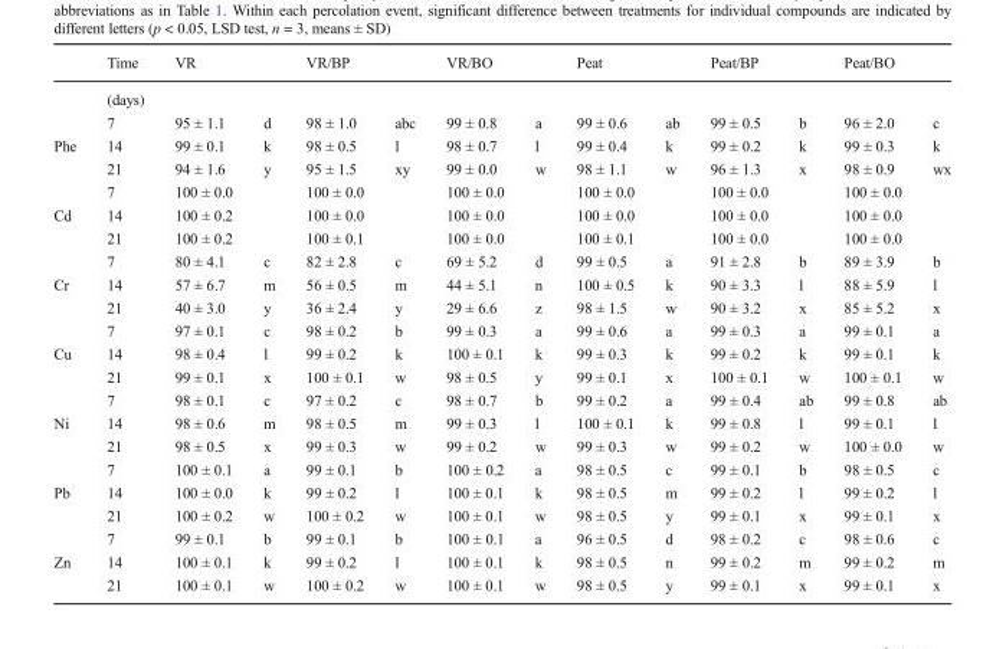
<table><thead><tr><td></td><td>Time</td><td>VR</td><td></td><td>VR/BP</td><td></td><td>VR/BO</td><td></td><td>Peat</td><td></td><td>Peat/BP</td><td></td><td>Peat/BO</td><td></td></tr></thead><tbody><tr><td></td><td>(days)</td><td></td><td></td><td></td><td></td><td></td><td></td><td></td><td></td><td></td><td></td><td></td><td></td></tr><tr><td></td><td>7</td><td>95 ± 1.1</td><td>d</td><td>98 ± 1.0</td><td>abc</td><td>99 ± 0.8</td><td>a</td><td>99 ± 0.6</td><td>ab</td><td>99 ± 0.5</td><td>b</td><td>96 ± 2.0</td><td>c</td></tr><tr><td rowspan="3">Phe</td><td>14</td><td>99 ± 0.1</td><td>k</td><td>98 ± 0.5</td><td>l</td><td>98 ± 0.7</td><td>l</td><td>99 ± 0.4</td><td>k</td><td>99 ± 0.2</td><td>k</td><td>99 ± 0.3</td><td>k</td></tr><tr><td>21</td><td>94 ± 1.6</td><td>y</td><td>95 ± 1.5</td><td>xy</td><td>99 ± 0.0</td><td>w</td><td>98 ± 1.1</td><td>w</td><td>96 ± 1.3</td><td>x</td><td>98 ± 0.9</td><td>wx</td></tr><tr><td>7</td><td>100 ± 0.0</td><td></td><td>100 ± 0.0</td><td></td><td>100 ± 0.0</td><td></td><td>100 ± 0.0</td><td></td><td>100 ± 0.0</td><td></td><td>100 ± 0.0</td><td></td></tr><tr><td rowspan="3">Cd</td><td>14</td><td>100 ± 0.2</td><td></td><td>100 ± 0.0</td><td></td><td>100 ± 0.0</td><td></td><td>100 ± 0.0</td><td></td><td>100 ± 0.0</td><td></td><td>100 ± 0.0</td><td></td></tr><tr><td>21</td><td>100 ± 0.2</td><td></td><td>100 ± 0.1</td><td></td><td>100 ± 0.0</td><td></td><td>100 ± 0.1</td><td></td><td>100 ± 0.0</td><td></td><td>100 ± 0.0</td><td></td></tr><tr><td>7</td><td>80 ± 4.1</td><td>c</td><td>82 ± 2.8</td><td>c</td><td>69 ± 5.2</td><td>d</td><td>99 ± 0.5</td><td>a</td><td>91 ± 2.8</td><td>b</td><td>89 ± 3.9</td><td>b</td></tr><tr><td rowspan="3">Cr</td><td>14</td><td>57 ± 6.7</td><td>m</td><td>56 ± 0.5</td><td>m</td><td>44 ± 5.1</td><td>n</td><td>100 ± 0.5</td><td>k</td><td>90 ± 3.3</td><td>l</td><td>88 ± 5.9</td><td>l</td></tr><tr><td>21</td><td>40 ± 3.0</td><td>y</td><td>36 ± 2.4</td><td>y</td><td>29 ± 6.6</td><td>z</td><td>98 ± 1.5</td><td>w</td><td>90 ± 3.2</td><td>x</td><td>85 ± 5.2</td><td>x</td></tr><tr><td>7</td><td>97 ± 0.1</td><td>c</td><td>98 ± 0.2</td><td>b</td><td>99 ± 0.3</td><td>a</td><td>99 ± 0.6</td><td>a</td><td>99 ± 0.3</td><td>a</td><td>99 ± 0.1</td><td>a</td></tr><tr><td rowspan="3">Cu</td><td>14</td><td>98 ± 0.4</td><td>l</td><td>99 ± 0.2</td><td>k</td><td>100 ± 0.1</td><td>k</td><td>99 ± 0.3</td><td>k</td><td>99 ± 0.2</td><td>k</td><td>99 ± 0.1</td><td>k</td></tr><tr><td>21</td><td>99 ± 0.1</td><td>x</td><td>100 ± 0.1</td><td>w</td><td>98 ± 0.5</td><td>y</td><td>99 ± 0.1</td><td>x</td><td>100 ± 0.1</td><td>w</td><td>100 ± 0.1</td><td>w</td></tr><tr><td>7</td><td>98 ± 0.1</td><td>c</td><td>97 ± 0.2</td><td>c</td><td>98 ± 0.7</td><td>b</td><td>99 ± 0.2</td><td>a</td><td>99 ± 0.4</td><td>ab</td><td>99 ± 0.8</td><td>ab</td></tr><tr><td rowspan="3">Ni</td><td>14</td><td>98 ± 0.6</td><td>m</td><td>98 ± 0.5</td><td>m</td><td>99 ± 0.3</td><td>l</td><td>100 ± 0.1</td><td>k</td><td>99 ± 0.8</td><td>l</td><td>99 ± 0.1</td><td>l</td></tr><tr><td>21</td><td>98 ± 0.5</td><td>x</td><td>99 ± 0.3</td><td>w</td><td>99 ± 0.2</td><td>w</td><td>99 ± 0.3</td><td>w</td><td>99 ± 0.2</td><td>w</td><td>100 ± 0.0</td><td>w</td></tr><tr><td>7</td><td>100 ± 0.1</td><td>a</td><td>99 ± 0.1</td><td>b</td><td>100 ± 0.2</td><td>a</td><td>98 ± 0.5</td><td>c</td><td>99 ± 0.1</td><td>b</td><td>98 ± 0.5</td><td>c</td></tr><tr><td rowspan="3">Pb</td><td>14</td><td>100 ± 0.0</td><td>k</td><td>99 ± 0.2</td><td>l</td><td>100 ± 0.1</td><td>k</td><td>98 ± 0.5</td><td>m</td><td>99 ± 0.2</td><td>l</td><td>99 ± 0.2</td><td>l</td></tr><tr><td>21</td><td>100 ± 0.2</td><td>w</td><td>100 ± 0.2</td><td>w</td><td>100 ± 0.1</td><td>w</td><td>98 ± 0.5</td><td>y</td><td>99 ± 0.1</td><td>x</td><td>99 ± 0.1</td><td>x</td></tr><tr><td>7</td><td>99 ± 0.1</td><td>b</td><td>99 ± 0.1</td><td>b</td><td>100 ± 0.1</td><td>a</td><td>96 ± 0.5</td><td>d</td><td>98 ± 0.2</td><td>c</td><td>98 ± 0.6</td><td>c</td></tr><tr><td rowspan="2">Zn</td><td>14</td><td>100 ± 0.1</td><td>k</td><td>99 ± 0.2</td><td>l</td><td>100 ± 0.1</td><td>k</td><td>98 ± 0.5</td><td>n</td><td>99 ± 0.2</td><td>m</td><td>99 ± 0.2</td><td>m</td></tr><tr><td>21</td><td>100 ± 0.1</td><td>w</td><td>100 ± 0.2</td><td>w</td><td>100 ± 0.1</td><td>w</td><td>98 ± 0.5</td><td>y</td><td>99 ± 0.1</td><td>x</td><td>99 ± 0.1</td><td>x</td></tr></tbody></table>